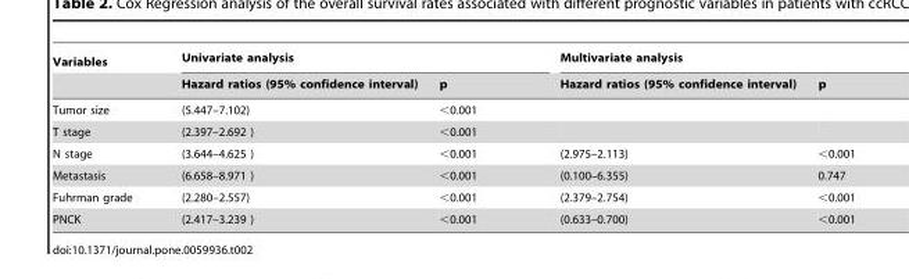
<table><thead><tr><td rowspan="2">Variables</td><td colspan="2">Univariate analysis</td><td colspan="2">Multivariate analysis</td></tr><tr><td>Hazard ratios (95% confidence interval)</td><td>p</td><td>Hazard ratios (95% confidence interval)</td><td>p</td></tr></thead><tbody><tr><td>Tumor size</td><td>(5.447–7.102)</td><td>&lt;0.001</td><td></td><td></td></tr><tr><td>T stage</td><td>(2.397–2.692 )</td><td>&lt;0.001</td><td></td><td></td></tr><tr><td>N stage</td><td>(3.644–4.625 )</td><td>&lt;0.001</td><td>(2.975–2.113)</td><td>&lt;0.001</td></tr><tr><td>Metastasis</td><td>(6.658–8.971 )</td><td>&lt;0.001</td><td>(0.100–6.355)</td><td>0.747</td></tr><tr><td>Fuhrman grade</td><td>(2.280–2.557)</td><td>&lt;0.001</td><td>(2.379–2.754)</td><td>&lt;0.001</td></tr><tr><td>PNCK</td><td>(2.417–3.239 )</td><td>&lt;0.001</td><td>(0.633–0.700)</td><td>&lt;0.001</td></tr></tbody></table>